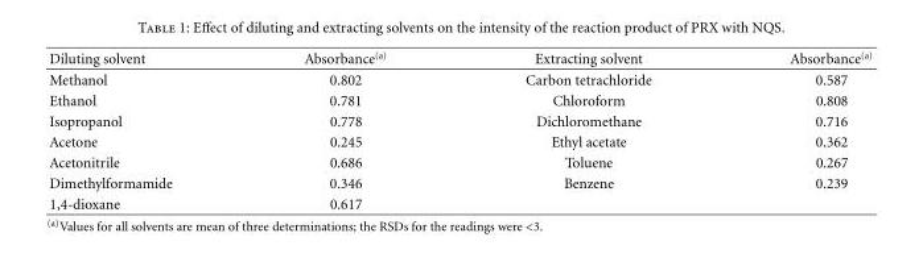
<table><thead><tr><td>Diluting solvent</td><td>Absorbance<sup>(a)</sup></td><td>Extracting solvent</td><td>Absorbance<sup>(a)</sup></td></tr></thead><tbody><tr><td>Methanol</td><td>0.802</td><td>Carbon tetrachloride</td><td>0.587</td></tr><tr><td>Ethanol</td><td>0.781</td><td>Chloroform</td><td>0.808</td></tr><tr><td>Isopropanol</td><td>0.778</td><td>Dichloromethane</td><td>0.716</td></tr><tr><td>Acetone</td><td>0.245</td><td>Ethyl acetate</td><td>0.362</td></tr><tr><td>Acetonitrile</td><td>0.686</td><td>Toluene</td><td>0.267</td></tr><tr><td>Dimethylformamide</td><td>0.346</td><td>Benzene</td><td>0.239</td></tr><tr><td>1,4-dioxane</td><td>0.617</td><td></td><td></td></tr></tbody></table>